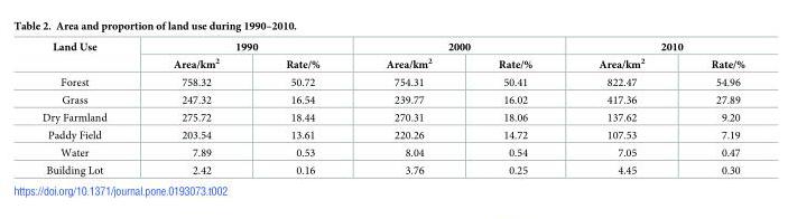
<table><thead><tr><td rowspan="2">Land Use</td><td colspan="2">1990</td><td colspan="2">2000</td><td colspan="2">2010</td></tr><tr><td>Area/km<sup>2</sup></td><td>Rate/%</td><td>Area/km<sup>2</sup></td><td>Rate/%</td><td>Area/km<sup>2</sup></td><td>Rate/%</td></tr></thead><tbody><tr><td>Forest</td><td>758.32</td><td>50.72</td><td>754.31</td><td>50.41</td><td>822.47</td><td>54.96</td></tr><tr><td>Grass</td><td>247.32</td><td>16.54</td><td>239.77</td><td>16.02</td><td>417.36</td><td>27.89</td></tr><tr><td>Dry Farmland</td><td>275.72</td><td>18.44</td><td>270.31</td><td>18.06</td><td>137.62</td><td>9.20</td></tr><tr><td>Paddy Field</td><td>203.54</td><td>13.61</td><td>220.26</td><td>14.72</td><td>107.53</td><td>7.19</td></tr><tr><td>Water</td><td>7.89</td><td>0.53</td><td>8.04</td><td>0.54</td><td>7.05</td><td>0.47</td></tr><tr><td>Building Lot</td><td>2.42</td><td>0.16</td><td>3.76</td><td>0.25</td><td>4.45</td><td>0.30</td></tr></tbody></table>